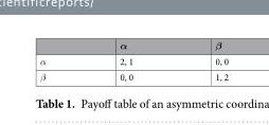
<table><thead><tr><td></td><td>α</td><td>β</td></tr></thead><tbody><tr><td>α</td><td>2, 1</td><td>0, 0</td></tr><tr><td>β</td><td>0, 0</td><td>1, 2</td></tr></tbody></table>